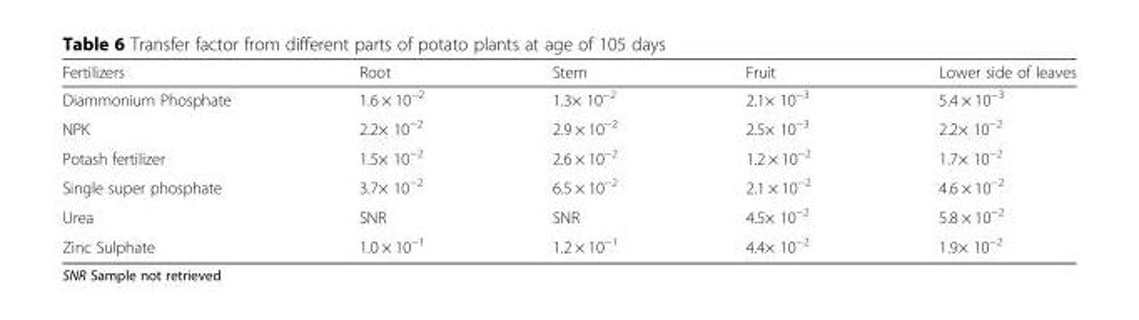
<table><thead><tr><td>Fertilizers</td><td>Root</td><td>Stem</td><td>Fruit</td><td>Lower side of leaves</td></tr></thead><tbody><tr><td>Diammonium Phosphate</td><td>1.6 × 10<sup>−2</sup></td><td>1.3× 10<sup>−2</sup></td><td>2.1× 10<sup>−3</sup></td><td>5.4 × 10<sup>−3</sup></td></tr><tr><td>NPK</td><td>2.2× 10<sup>−2</sup></td><td>2.9 × 10<sup>−2</sup></td><td>2.5× 10<sup>−3</sup></td><td>2.2× 10<sup>−2</sup></td></tr><tr><td>Potash fertilizer</td><td>1.5× 10<sup>−2</sup></td><td>2.6 × 10<sup>−2</sup></td><td>1.2 × 10<sup>−2</sup></td><td>1.7× 10<sup>−2</sup></td></tr><tr><td>Single super phosphate</td><td>3.7× 10<sup>−2</sup></td><td>6.5 × 10<sup>−2</sup></td><td>2.1 × 10<sup>−2</sup></td><td>4.6 × 10<sup>−2</sup></td></tr><tr><td>Urea</td><td>SNR</td><td>SNR</td><td>4.5× 10<sup>−2</sup></td><td>5.8 × 10<sup>−2</sup></td></tr><tr><td>Zinc Sulphate</td><td>1.0 × 10<sup>−1</sup></td><td>1.2 × 10<sup>−1</sup></td><td>4.4× 10<sup>−2</sup></td><td>1.9× 10<sup>−2</sup></td></tr></tbody></table>